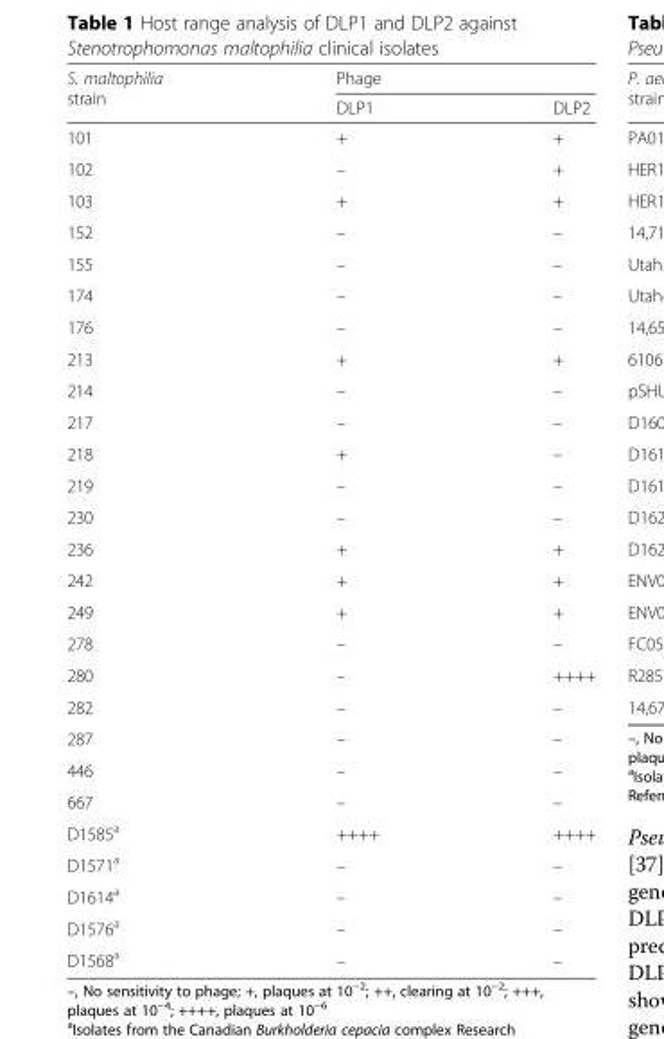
<table><thead><tr><td rowspan="2">S. maltophilia strain</td><td colspan="2">Phage</td></tr><tr><td>DLP1</td><td>DLP2</td></tr></thead><tbody><tr><td>101</td><td>+</td><td>+</td></tr><tr><td>102</td><td>–</td><td>+</td></tr><tr><td>103</td><td>+</td><td>+</td></tr><tr><td>152</td><td>–</td><td>–</td></tr><tr><td>155</td><td>–</td><td>–</td></tr><tr><td>174</td><td>–</td><td>–</td></tr><tr><td>176</td><td>–</td><td>–</td></tr><tr><td>213</td><td>+</td><td>+</td></tr><tr><td>214</td><td>–</td><td>–</td></tr><tr><td>217</td><td>–</td><td>–</td></tr><tr><td>218</td><td>+</td><td>–</td></tr><tr><td>219</td><td>–</td><td>–</td></tr><tr><td>230</td><td>–</td><td>–</td></tr><tr><td>236</td><td>+</td><td>+</td></tr><tr><td>242</td><td>+</td><td>+</td></tr><tr><td>249</td><td>+</td><td>+</td></tr><tr><td>278</td><td>–</td><td>–</td></tr><tr><td>280</td><td>–</td><td>++++</td></tr><tr><td>282</td><td>–</td><td>–</td></tr><tr><td>287</td><td>–</td><td>–</td></tr><tr><td>446</td><td>–</td><td>–</td></tr><tr><td>667</td><td>–</td><td>–</td></tr><tr><td>D1585<sup>a</sup></td><td>++++</td><td>++++</td></tr><tr><td>D1571<sup>a</sup></td><td>–</td><td>–</td></tr><tr><td>D1614<sup>a</sup></td><td>–</td><td>–</td></tr><tr><td>D1576<sup>a</sup></td><td>–</td><td>–</td></tr><tr><td>D1568<sup>a</sup></td><td>–</td><td>–</td></tr></tbody></table>